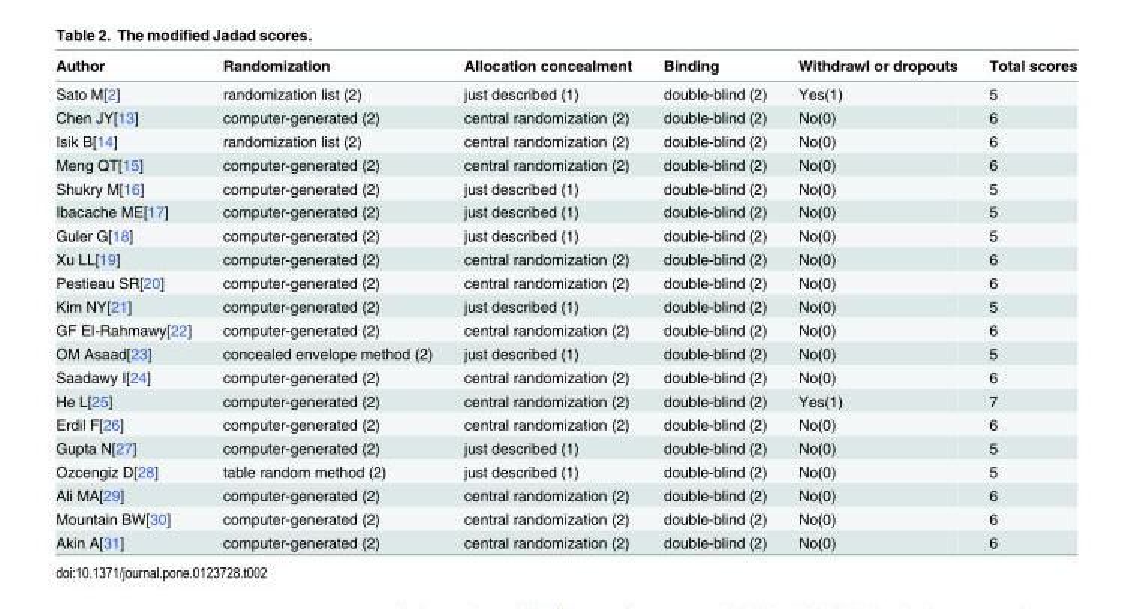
<table><thead><tr><td>Author</td><td>Randomization</td><td>Allocation concealment</td><td>Binding</td><td>Withdrawl or dropouts</td><td>Total scores</td></tr></thead><tbody><tr><td>Sato M[2]</td><td>randomization list (2)</td><td>just described (1)</td><td>double-blind (2)</td><td>Yes(1)</td><td>5</td></tr><tr><td>Chen JY[13]</td><td>computer-generated (2)</td><td>central randomization (2)</td><td>double-blind (2)</td><td>No(0)</td><td>6</td></tr><tr><td>Isik B[14]</td><td>randomization list (2)</td><td>central randomization (2)</td><td>double-blind (2)</td><td>No(0)</td><td>6</td></tr><tr><td>Meng QT[15]</td><td>computer-generated (2)</td><td>central randomization (2)</td><td>double-blind (2)</td><td>No(0)</td><td>6</td></tr><tr><td>Shukry M[16]</td><td>computer-generated (2)</td><td>just described (1)</td><td>double-blind (2)</td><td>No(0)</td><td>5</td></tr><tr><td>Ibacache ME[17]</td><td>computer-generated (2)</td><td>just described (1)</td><td>double-blind (2)</td><td>No(0)</td><td>5</td></tr><tr><td>Guler G[18]</td><td>computer-generated (2)</td><td>just described (1)</td><td>double-blind (2)</td><td>No(0)</td><td>5</td></tr><tr><td>Xu LL[19]</td><td>computer-generated (2)</td><td>central randomization (2)</td><td>double-blind (2)</td><td>No(0)</td><td>6</td></tr><tr><td>Pestieau SR[20]</td><td>computer-generated (2)</td><td>central randomization (2)</td><td>double-blind (2)</td><td>No(0)</td><td>6</td></tr><tr><td>Kim NY[21]</td><td>computer-generated (2)</td><td>just described (1)</td><td>double-blind (2)</td><td>No(0)</td><td>5</td></tr><tr><td>GF EI-Rahmawy[22]</td><td>computer-generated (2)</td><td>central randomization (2)</td><td>double-blind (2)</td><td>No(0)</td><td>6</td></tr><tr><td>OM Asaad[23]</td><td>concealed envelope method (2)</td><td>just described (1)</td><td>double-blind (2)</td><td>No(0)</td><td>5</td></tr><tr><td>Saadawy I[24]</td><td>computer-generated (2)</td><td>central randomization (2)</td><td>double-blind (2)</td><td>No(0)</td><td>6</td></tr><tr><td>He L[25]</td><td>computer-generated (2)</td><td>central randomization (2)</td><td>double-blind (2)</td><td>Yes(1)</td><td>7</td></tr><tr><td>Erdil F[26]</td><td>computer-generated (2)</td><td>central randomization (2)</td><td>double-blind (2)</td><td>No(0)</td><td>6</td></tr><tr><td>Gupta N[27]</td><td>computer-generated (2)</td><td>just described (1)</td><td>double-blind (2)</td><td>No(0)</td><td>5</td></tr><tr><td>Ozcengiz D[28]</td><td>table random method (2)</td><td>just described (1)</td><td>double-blind (2)</td><td>No(0)</td><td>5</td></tr><tr><td>Ali MA[29]</td><td>computer-generated (2)</td><td>central randomization (2)</td><td>double-blind (2)</td><td>No(0)</td><td>6</td></tr><tr><td>Mountain BW[30]</td><td>computer-generated (2)</td><td>central randomization (2)</td><td>double-blind (2)</td><td>No(0)</td><td>6</td></tr><tr><td>Akin A[31]</td><td>computer-generated (2)</td><td>central randomization (2)</td><td>double-blind (2)</td><td>No(0)</td><td>6</td></tr></tbody></table>